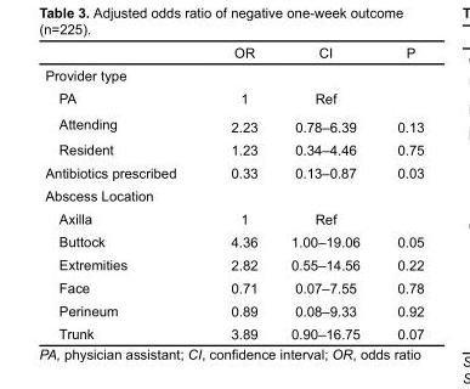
<table><thead><tr><td></td><td>OR</td><td>CI</td><td>P</td></tr></thead><tbody><tr><td colspan="4">Provider type</td></tr><tr><td>PA</td><td>1</td><td>Ref</td><td></td></tr><tr><td>Attending</td><td>2.23</td><td>0.78–6.39</td><td>0.13</td></tr><tr><td>Resident</td><td>1.23</td><td>0.34–4.46</td><td>0.75</td></tr><tr><td>Antibiotics prescribed</td><td>0.33</td><td>0.13–0.87</td><td>0.03</td></tr><tr><td colspan="4">Abscess Location</td></tr><tr><td>Axilla</td><td>1</td><td>Ref</td><td></td></tr><tr><td>Buttock</td><td>4.36</td><td>1.00–19.06</td><td>0.05</td></tr><tr><td>Extremities</td><td>2.82</td><td>0.55–14.56</td><td>0.22</td></tr><tr><td>Face</td><td>0.71</td><td>0.07–7.55</td><td>0.78</td></tr><tr><td>Perineum</td><td>0.89</td><td>0.08–9.33</td><td>0.92</td></tr><tr><td>Trunk</td><td>3.89</td><td>0.90–16.75</td><td>0.07</td></tr></tbody></table>